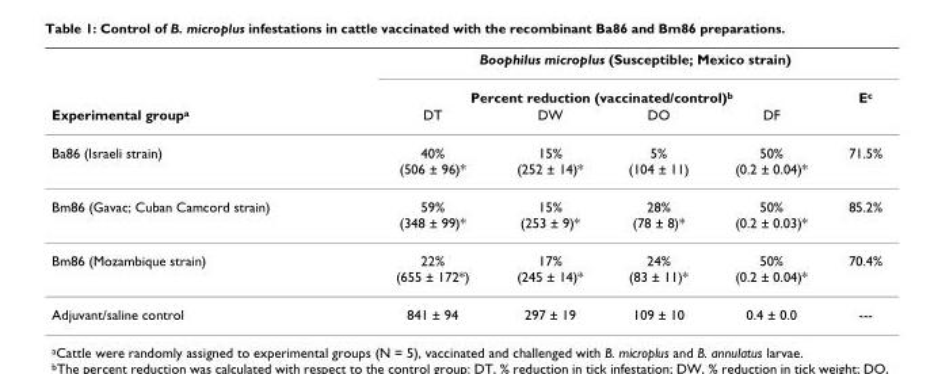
<table><thead><tr><td rowspan="3">Experimental group<sup>a</sup></td><td colspan="5">Boophilus microplus (Susceptible; Mexico strain)</td></tr><tr><td colspan="4">Percent reduction (vaccinated/control)<sup>b</sup></td><td rowspan="2">E<sup>c</sup></td></tr><tr><td>DT</td><td>DW</td><td>DO</td><td>DF</td></tr></thead><tbody><tr><td>Ba86 (Israeli strain)</td><td>40% (506 ± 96)*</td><td>15% (252 ± 14)*</td><td>5% (104 ± 11)</td><td>50% (0.2 ± 0.04)*</td><td>71.5%</td></tr><tr><td>Bm86 (Gavac; Cuban Camcord strain)</td><td>59% (348 ± 99)*</td><td>15% (253 ± 9)*</td><td>28% (78 ± 8)*</td><td>50% (0.2 ± 0.03)*</td><td>85.2%</td></tr><tr><td>Bm86 (Mozambique strain)</td><td>22% (655 ± 172*)</td><td>17% (245 ± 14)*</td><td>24% (83 ± 11)*</td><td>50% (0.2 ± 0.04)*</td><td>70.4%</td></tr><tr><td>Adjuvant/saline control</td><td>841 ± 94</td><td>297 ± 19</td><td>109 ± 10</td><td>0.4 ± 0.0</td><td>---</td></tr></tbody></table>